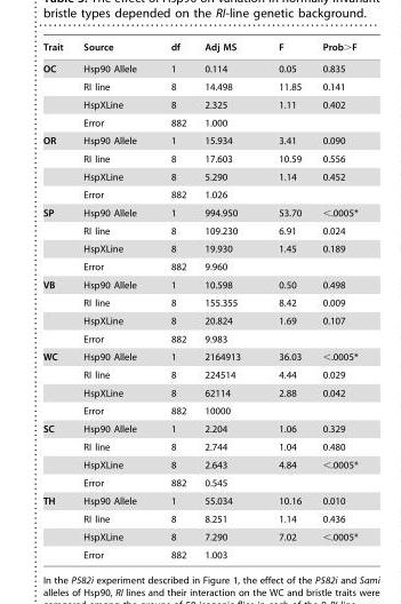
<table><thead><tr><td>Trait</td><td>Source</td><td>df</td><td>Adj MS</td><td>F</td><td>Prob&gt;F</td></tr></thead><tbody><tr><td rowspan="4">OC</td><td>Hsp90 Allele</td><td>1</td><td>0.114</td><td>0.05</td><td>0.835</td></tr><tr><td>RI line</td><td>8</td><td>14.498</td><td>11.85</td><td>0.141</td></tr><tr><td>HspXLine</td><td>8</td><td>2.325</td><td>1.11</td><td>0.402</td></tr><tr><td>Error</td><td>882</td><td>1.000</td><td></td><td></td></tr><tr><td rowspan="4">OR</td><td>Hsp90 Allele</td><td>1</td><td>15.934</td><td>3.41</td><td>0.090</td></tr><tr><td>RI line</td><td>8</td><td>17.603</td><td>10.59</td><td>0.556</td></tr><tr><td>HspXLine</td><td>8</td><td>5.290</td><td>1.14</td><td>0.452</td></tr><tr><td>Error</td><td>882</td><td>1.026</td><td></td><td></td></tr><tr><td rowspan="4">SP</td><td>Hsp90 Allele</td><td>1</td><td>994.950</td><td>53.70</td><td>&lt;.0005*</td></tr><tr><td>RI line</td><td>8</td><td>109.230</td><td>6.91</td><td>0.024</td></tr><tr><td>HspXLine</td><td>8</td><td>19.930</td><td>1.45</td><td>0.189</td></tr><tr><td>Error</td><td>882</td><td>9.960</td><td></td><td></td></tr><tr><td rowspan="4">VB</td><td>Hsp90 Allele</td><td>1</td><td>10.598</td><td>0.50</td><td>0.498</td></tr><tr><td>RI line</td><td>8</td><td>155.355</td><td>8.42</td><td>0.009</td></tr><tr><td>HspXLine</td><td>8</td><td>20.824</td><td>1.69</td><td>0.107</td></tr><tr><td>Error</td><td>882</td><td>9.983</td><td></td><td></td></tr><tr><td rowspan="4">WC</td><td>Hsp90 Allele</td><td>1</td><td>2164913</td><td>36.03</td><td>&lt;.0005*</td></tr><tr><td>RI line</td><td>8</td><td>224514</td><td>4.44</td><td>0.029</td></tr><tr><td>HspXLine</td><td>8</td><td>62114</td><td>2.88</td><td>0.042</td></tr><tr><td>Error</td><td>882</td><td>10000</td><td></td><td></td></tr><tr><td rowspan="4">SC</td><td>Hsp90 Allele</td><td>1</td><td>2.204</td><td>1.06</td><td>0.329</td></tr><tr><td>RI line</td><td>8</td><td>2.744</td><td>1.04</td><td>0.480</td></tr><tr><td>HspXLine</td><td>8</td><td>2.643</td><td>4.84</td><td>&lt;.0005*</td></tr><tr><td>Error</td><td>882</td><td>0.545</td><td></td><td></td></tr><tr><td rowspan="4">TH</td><td>Hsp90 Allele</td><td>1</td><td>55.034</td><td>10.16</td><td>0.010</td></tr><tr><td>RI line</td><td>8</td><td>8.251</td><td>1.14</td><td>0.436</td></tr><tr><td>HspXLine</td><td>8</td><td>7.290</td><td>7.02</td><td>&lt;.0005*</td></tr><tr><td>Error</td><td>882</td><td>1.003</td><td></td><td></td></tr></tbody></table>